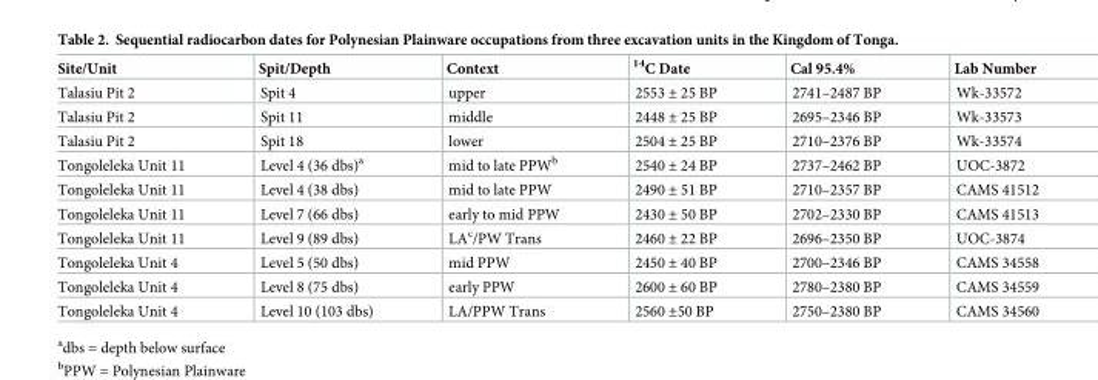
<table><thead><tr><td>Site/Unit</td><td>Spit/Depth</td><td>Context</td><td><sup>14</sup>C Date</td><td>Cal 95.4%</td><td>Lab Number</td></tr></thead><tbody><tr><td>Talasiu Pit 2</td><td>Spit 4</td><td>upper</td><td>2553 ± 25 BP</td><td>2741–2487 BP</td><td>Wk-33572</td></tr><tr><td>Talasiu Pit 2</td><td>Spit 11</td><td>middle</td><td>2448 ± 25 BP</td><td>2695–2346 BP</td><td>Wk-33573</td></tr><tr><td>Talasiu Pit 2</td><td>Spit 18</td><td>lower</td><td>2504 ± 25 BP</td><td>2710–2376 BP</td><td>Wk-33574</td></tr><tr><td>Tongoleleka Unit 11</td><td>Level 4 (36 dbs)<sup>a</sup></td><td>mid to late PPW<sup>b</sup></td><td>2540 ± 24 BP</td><td>2737–2462 BP</td><td>UOC-3872</td></tr><tr><td>Tongoleleka Unit 11</td><td>Level 4 (38 dbs)</td><td>mid to late PPW</td><td>2490 ± 51 BP</td><td>2710–2357 BP</td><td>CAMS 41512</td></tr><tr><td>Tongoleleka Unit 11</td><td>Level 7 (66 dbs)</td><td>early to mid PPW</td><td>2430 ± 50 BP</td><td>2702–2330 BP</td><td>CAMS 41513</td></tr><tr><td>Tongoleleka Unit 11</td><td>Level 9 (89 dbs)</td><td>LA<sup>c</sup>/PW Trans</td><td>2460 ± 22 BP</td><td>2696–2350 BP</td><td>UOC-3874</td></tr><tr><td>Tongoleleka Unit 4</td><td>Level 5 (50 dbs)</td><td>mid PPW</td><td>2450 ± 40 BP</td><td>2700–2346 BP</td><td>CAMS 34558</td></tr><tr><td>Tongoleleka Unit 4</td><td>Level 8 (75 dbs)</td><td>early PPW</td><td>2600 ± 60 BP</td><td>2780–2380 BP</td><td>CAMS 34559</td></tr><tr><td>Tongoleleka Unit 4</td><td>Level 10 (103 dbs)</td><td>LA/PPW Trans</td><td>2560 ±50 BP</td><td>2750–2380 BP</td><td>CAMS 34560</td></tr></tbody></table>